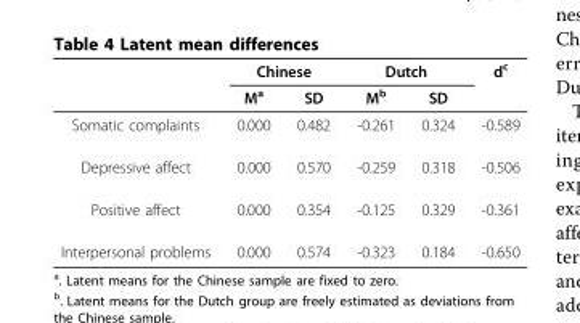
<table><thead><tr><td rowspan="2"></td><td colspan="2">Chinese</td><td colspan="2">Dutch</td><td rowspan="2">d<sup>c</sup></td></tr><tr><td>M<sup>a</sup></td><td>SD</td><td>M<sup>b</sup></td><td>SD</td></tr></thead><tbody><tr><td>Somatic complaints</td><td>0.000</td><td>0.482</td><td>-0.261</td><td>0.324</td><td>-0.589</td></tr><tr><td>Depressive affect</td><td>0.000</td><td>0.570</td><td>-0.259</td><td>0.318</td><td>-0.506</td></tr><tr><td>Positive affect</td><td>0.000</td><td>0.354</td><td>-0.125</td><td>0.329</td><td>-0.361</td></tr><tr><td>Interpersonal problems</td><td>0.000</td><td>0.574</td><td>-0.323</td><td>0.184</td><td>-0.650</td></tr></tbody></table>